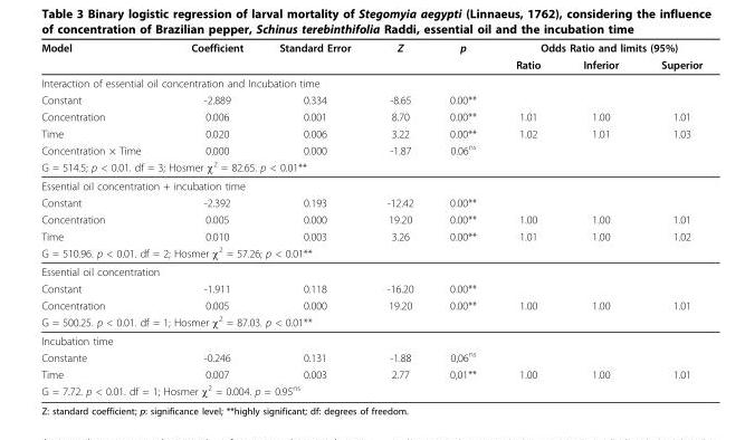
<table><thead><tr><td rowspan="2">Model</td><td rowspan="2">Coefficient</td><td rowspan="2">Standard Error</td><td rowspan="2">Z</td><td rowspan="2">p</td><td colspan="3">Odds Ratio and limits (95%)</td></tr><tr><td>Ratio</td><td>Inferior</td><td>Superior</td></tr></thead><tbody><tr><td colspan="8">Interaction of essential oil concentration and Incubation time</td></tr><tr><td>Constant</td><td>-2.889</td><td>0.334</td><td>-8.65</td><td>0.00**</td><td></td><td></td><td></td></tr><tr><td>Concentration</td><td>0.006</td><td>0.001</td><td>8.70</td><td>0.00**</td><td>1.01</td><td>1.00</td><td>1.01</td></tr><tr><td>Time</td><td>0.020</td><td>0.006</td><td>3.22</td><td>0.00**</td><td>1.02</td><td>1.01</td><td>1.03</td></tr><tr><td>Concentration × Time</td><td>0.000</td><td>0.000</td><td>-1.87</td><td>0.06<sup>ns</sup></td><td></td><td></td><td></td></tr><tr><td colspan="8">G = 514.5; p &lt; 0.01. df = 3; Hosmer χ<sup>2</sup> = 82.65. p &lt; 0.01**</td></tr><tr><td colspan="8">Essential oil concentration + incubation time</td></tr><tr><td>Constant</td><td>-2.392</td><td>0.193</td><td>-12.42</td><td>0.00**</td><td></td><td></td><td></td></tr><tr><td>Concentration</td><td>0.005</td><td>0.000</td><td>19.20</td><td>0.00**</td><td>1.00</td><td>1.00</td><td>1.01</td></tr><tr><td>Time</td><td>0.010</td><td>0.003</td><td>3.26</td><td>0.00**</td><td>1.01</td><td>1.00</td><td>1.02</td></tr><tr><td colspan="8">G = 510.96. p &lt; 0.01. df = 2; Hosmer χ<sup>2</sup> = 57.26; p &lt; 0.01**</td></tr><tr><td colspan="8">Essential oil concentration</td></tr><tr><td>Constant</td><td>-1.911</td><td>0.118</td><td>-16.20</td><td>0.00**</td><td></td><td></td><td></td></tr><tr><td>Concentration</td><td>0.005</td><td>0.000</td><td>19.20</td><td>0.00**</td><td>1.00</td><td>1.00</td><td>1.01</td></tr><tr><td colspan="8">G = 500.25. p &lt; 0.01. df = 1; Hosmer χ<sup>2</sup> = 87.03. p &lt; 0.01**</td></tr><tr><td colspan="8">Incubation time</td></tr><tr><td>Constante</td><td>-0.246</td><td>0.131</td><td>-1.88</td><td>0,06<sup>ns</sup></td><td></td><td></td><td></td></tr><tr><td>Time</td><td>0.007</td><td>0.003</td><td>2.77</td><td>0,01**</td><td>1.00</td><td>1.00</td><td>1.01</td></tr><tr><td colspan="8">G = 7.72. p &lt; 0.01. df = 1; Hosmer χ<sup>2</sup> = 0.004. p = 0.95<sup>ns</sup></td></tr></tbody></table>